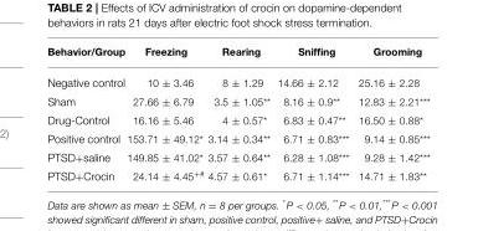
<table><thead><tr><td>Behavior/Group</td><td>Freezing</td><td>Rearing</td><td>Sniffing</td><td>Grooming</td></tr></thead><tbody><tr><td>Negative control</td><td>10 ± 3.46</td><td>8 ± 1.29</td><td>14.66 ± 2.12</td><td>25.16 ± 2.28</td></tr><tr><td>Sham</td><td>27.66 ± 6.79</td><td>3.5 ± 1.05**</td><td>8.16 ± 0.9**</td><td>12.83 ± 2.21***</td></tr><tr><td>Drug-Control</td><td>16.16 ± 5.46</td><td>4 ± 0.57*</td><td>6.83 ± 0.47**</td><td>16.50 ± 0.88*</td></tr><tr><td>Positive control</td><td>153.71 ± 49.12*</td><td>3.14 ± 0.34**</td><td>6.71 ± 0.83***</td><td>9.14 ± 0.85***</td></tr><tr><td>PTSD+saline</td><td>149.85 ± 41.02*</td><td>3.57 ± 0.64**</td><td>6.28 ± 1.08***</td><td>9.28 ± 1.42***</td></tr><tr><td>PTSD+Crocin</td><td>24.14 ± 4.45<sup>+#</sup></td><td>4.57 ± 0.61*</td><td>6.71 ± 1.14***</td><td>14.71 ± 1.83**</td></tr></tbody></table>